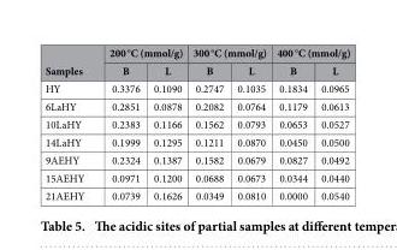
<table><thead><tr><td rowspan="2">Samples</td><td colspan="2">200 °C (mmol/g)</td><td colspan="2">300 °C (mmol/g)</td><td colspan="2">400 °C (mmol/g)</td></tr><tr><td>B</td><td>L</td><td>B</td><td>L</td><td>B</td><td>L</td></tr></thead><tbody><tr><td>HY</td><td>0.3376</td><td>0.1090</td><td>0.2747</td><td>0.1035</td><td>0.1834</td><td>0.0965</td></tr><tr><td>6LaHY</td><td>0.2851</td><td>0.0878</td><td>0.2082</td><td>0.0764</td><td>0.1179</td><td>0.0613</td></tr><tr><td>10LaHY</td><td>0.2383</td><td>0.1166</td><td>0.1562</td><td>0.0793</td><td>0.0653</td><td>0.0527</td></tr><tr><td>14LaHY</td><td>0.1999</td><td>0.1295</td><td>0.1211</td><td>0.0870</td><td>0.0450</td><td>0.0500</td></tr><tr><td>9AEHY</td><td>0.2324</td><td>0.1387</td><td>0.1582</td><td>0.0679</td><td>0.0827</td><td>0.0492</td></tr><tr><td>15AEHY</td><td>0.0971</td><td>0.1200</td><td>0.0688</td><td>0.0673</td><td>0.0344</td><td>0.0440</td></tr><tr><td>21AEHY</td><td>0.0739</td><td>0.1626</td><td>0.0349</td><td>0.0810</td><td>0.0000</td><td>0.0540</td></tr></tbody></table>